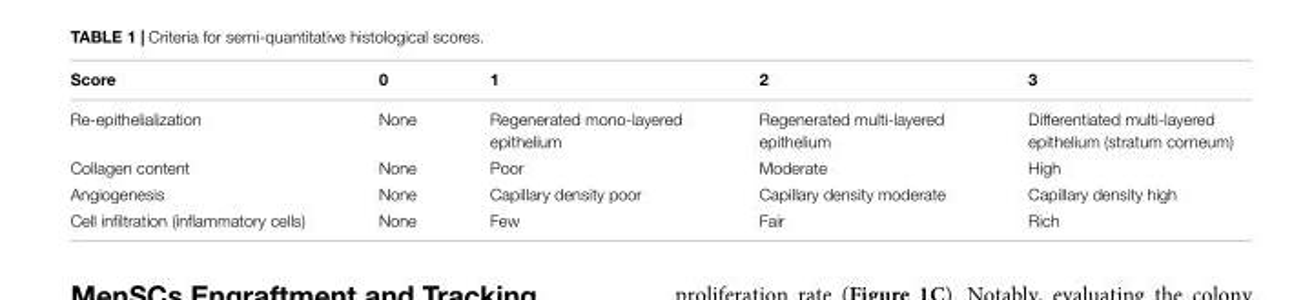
<table><thead><tr><td>Score</td><td>0</td><td>1</td><td>2</td><td>3</td></tr></thead><tbody><tr><td>Re-epithelialization</td><td>None</td><td>Regenerated mono-layered epithelium</td><td>Regenerated multi-layered epithelium</td><td>Differentiated multi-layered epithelium (stratum corneum)</td></tr><tr><td>Collagen content</td><td>None</td><td>Poor</td><td>Moderate</td><td>High</td></tr><tr><td>Angiogenesis</td><td>None</td><td>Capillary density poor</td><td>Capillary density moderate</td><td>Capillary density high</td></tr><tr><td>Cell infiltration (inflammatory cells)</td><td>None</td><td>Few</td><td>Fair</td><td>Rich</td></tr></tbody></table>